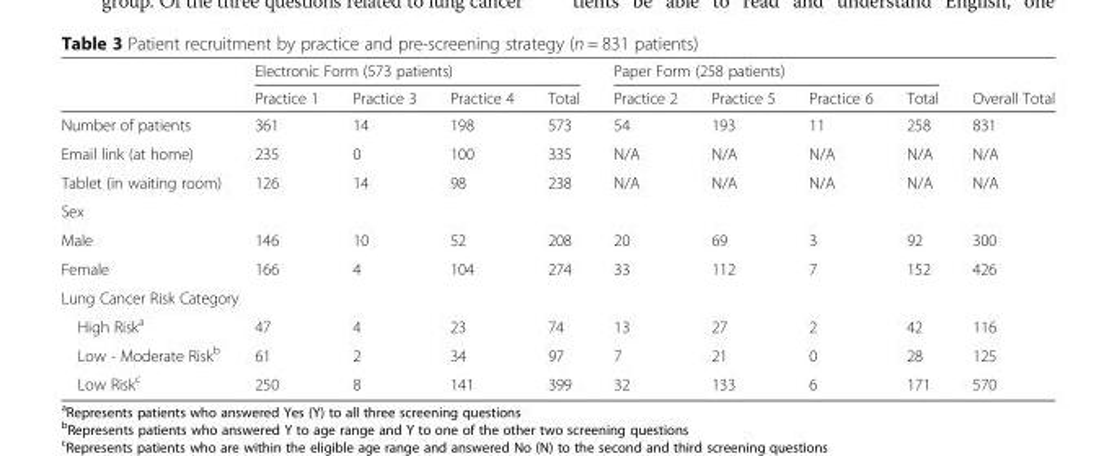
<table><thead><tr><td rowspan="2"></td><td colspan="4">Electronic Form (573 patients)</td><td colspan="4">Paper Form (258 patients)</td><td rowspan="2">Overall Total</td></tr><tr><td>Practice 1</td><td>Practice 3</td><td>Practice 4</td><td>Total</td><td>Practice 2</td><td>Practice 5</td><td>Practice 6</td><td>Total</td></tr></thead><tbody><tr><td>Number of patients</td><td>361</td><td>14</td><td>198</td><td>573</td><td>54</td><td>193</td><td>11</td><td>258</td><td>831</td></tr><tr><td>Email link (at home)</td><td>235</td><td>0</td><td>100</td><td>335</td><td>N/A</td><td>N/A</td><td>N/A</td><td>N/A</td><td>N/A</td></tr><tr><td>Tablet (in waiting room)</td><td>126</td><td>14</td><td>98</td><td>238</td><td>N/A</td><td>N/A</td><td>N/A</td><td>N/A</td><td>N/A</td></tr><tr><td colspan="10">Sex</td></tr><tr><td>Male</td><td>146</td><td>10</td><td>52</td><td>208</td><td>20</td><td>69</td><td>3</td><td>92</td><td>300</td></tr><tr><td>Female</td><td>166</td><td>4</td><td>104</td><td>274</td><td>33</td><td>112</td><td>7</td><td>152</td><td>426</td></tr><tr><td colspan="10">Lung Cancer Risk Category</td></tr><tr><td>High Risk<sup>a</sup></td><td>47</td><td>4</td><td>23</td><td>74</td><td>13</td><td>27</td><td>2</td><td>42</td><td>116</td></tr><tr><td>Low - Moderate Risk<sup>b</sup></td><td>61</td><td>2</td><td>34</td><td>97</td><td>7</td><td>21</td><td>0</td><td>28</td><td>125</td></tr><tr><td>Low Risk<sup>c</sup></td><td>250</td><td>8</td><td>141</td><td>399</td><td>32</td><td>133</td><td>6</td><td>171</td><td>570</td></tr></tbody></table>